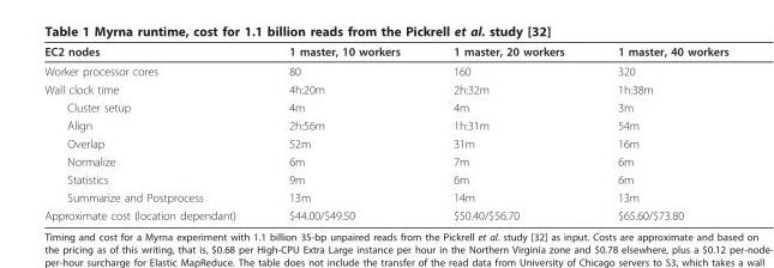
<table><thead><tr><td>EC2 nodes</td><td>1 master, 10 workers</td><td>1 master, 20 workers</td><td>1 master, 40 workers</td></tr></thead><tbody><tr><td>Worker processor cores</td><td>80</td><td>160</td><td>320</td></tr><tr><td>Wall clock time</td><td>4h:20m</td><td>2h:32m</td><td>1h:38m</td></tr><tr><td>Cluster setup</td><td>4m</td><td>4m</td><td>3m</td></tr><tr><td>Align</td><td>2h:56m</td><td>1h:31m</td><td>54m</td></tr><tr><td>Overlap</td><td>52m</td><td>31m</td><td>16m</td></tr><tr><td>Normalize</td><td>6m</td><td>7m</td><td>6m</td></tr><tr><td>Statistics</td><td>9m</td><td>6m</td><td>6m</td></tr><tr><td>Summarize and Postprocess</td><td>13m</td><td>14m</td><td>13m</td></tr><tr><td>Approximate cost (location dependant)</td><td>$44.00/$49.50</td><td>$50.40/$56.70</td><td>$65.60/$73.80</td></tr></tbody></table>